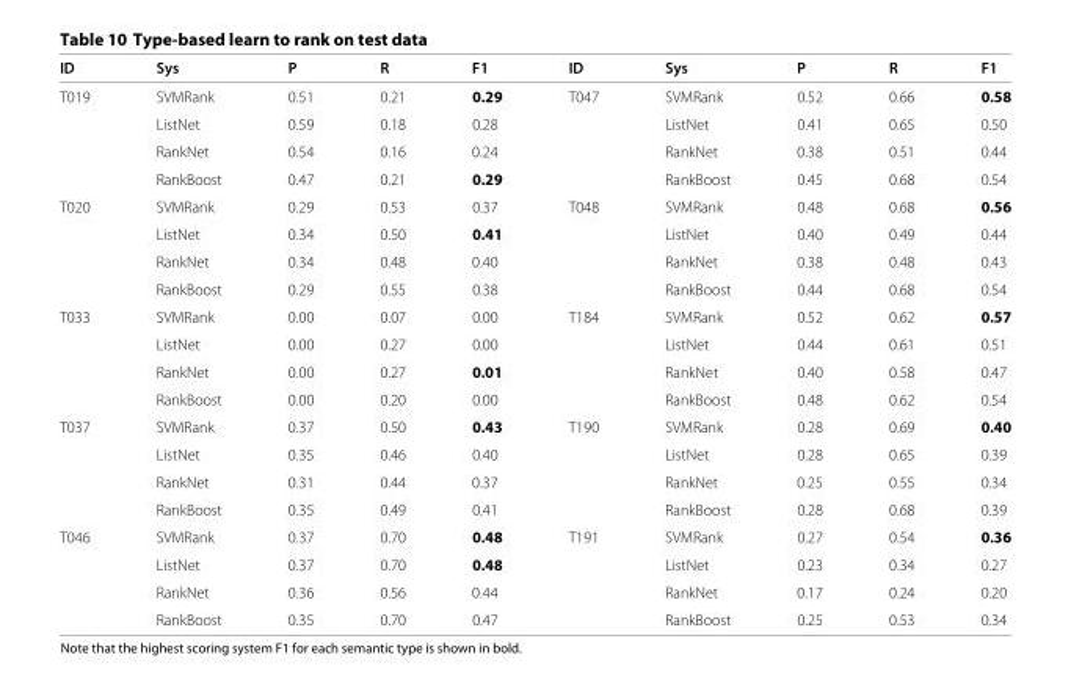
<table><thead><tr><td>ID</td><td>Sys</td><td>P</td><td>R</td><td>F1</td><td>ID</td><td>Sys</td><td>P</td><td>R</td><td>F1</td></tr></thead><tbody><tr><td rowspan="4">T019</td><td>SVMRank</td><td>0.51</td><td>0.21</td><td>0.29</td><td>T047</td><td>SVMRank</td><td>0.52</td><td>0.66</td><td>0.58</td></tr><tr><td>ListNet</td><td>0.59</td><td>0.18</td><td>0.28</td><td></td><td>ListNet</td><td>0.41</td><td>0.65</td><td>0.50</td></tr><tr><td>RankNet</td><td>0.54</td><td>0.16</td><td>0.24</td><td></td><td>RankNet</td><td>0.38</td><td>0.51</td><td>0.44</td></tr><tr><td>RankBoost</td><td>0.47</td><td>0.21</td><td>0.29</td><td></td><td>RankBoost</td><td>0.45</td><td>0.68</td><td>0.54</td></tr><tr><td rowspan="4">T020</td><td>SVMRank</td><td>0.29</td><td>0.53</td><td>0.37</td><td>T048</td><td>SVMRank</td><td>0.48</td><td>0.68</td><td>0.56</td></tr><tr><td>ListNet</td><td>0.34</td><td>0.50</td><td>0.41</td><td></td><td>ListNet</td><td>0.40</td><td>0.49</td><td>0.44</td></tr><tr><td>RankNet</td><td>0.34</td><td>0.48</td><td>0.40</td><td></td><td>RankNet</td><td>0.38</td><td>0.48</td><td>0.43</td></tr><tr><td>RankBoost</td><td>0.29</td><td>0.55</td><td>0.38</td><td></td><td>RankBoost</td><td>0.44</td><td>0.68</td><td>0.54</td></tr><tr><td rowspan="4">T033</td><td>SVMRank</td><td>0.00</td><td>0.07</td><td>0.00</td><td>T184</td><td>SVMRank</td><td>0.52</td><td>0.62</td><td>0.57</td></tr><tr><td>ListNet</td><td>0.00</td><td>0.27</td><td>0.00</td><td></td><td>ListNet</td><td>0.44</td><td>0.61</td><td>0.51</td></tr><tr><td>RankNet</td><td>0.00</td><td>0.27</td><td>0.01</td><td></td><td>RankNet</td><td>0.40</td><td>0.58</td><td>0.47</td></tr><tr><td>RankBoost</td><td>0.00</td><td>0.20</td><td>0.00</td><td></td><td>RankBoost</td><td>0.48</td><td>0.62</td><td>0.54</td></tr><tr><td rowspan="4">T037</td><td>SVMRank</td><td>0.37</td><td>0.50</td><td>0.43</td><td>T190</td><td>SVMRank</td><td>0.28</td><td>0.69</td><td>0.40</td></tr><tr><td>ListNet</td><td>0.35</td><td>0.46</td><td>0.40</td><td></td><td>ListNet</td><td>0.28</td><td>0.65</td><td>0.39</td></tr><tr><td>RankNet</td><td>0.31</td><td>0.44</td><td>0.37</td><td></td><td>RankNet</td><td>0.25</td><td>0.55</td><td>0.34</td></tr><tr><td>RankBoost</td><td>0.35</td><td>0.49</td><td>0.41</td><td></td><td>RankBoost</td><td>0.28</td><td>0.68</td><td>0.39</td></tr><tr><td rowspan="4">T046</td><td>SVMRank</td><td>0.37</td><td>0.70</td><td>0.48</td><td>T191</td><td>SVMRank</td><td>0.27</td><td>0.54</td><td>0.36</td></tr><tr><td>ListNet</td><td>0.37</td><td>0.70</td><td>0.48</td><td></td><td>ListNet</td><td>0.23</td><td>0.34</td><td>0.27</td></tr><tr><td>RankNet</td><td>0.36</td><td>0.56</td><td>0.44</td><td></td><td>RankNet</td><td>0.17</td><td>0.24</td><td>0.20</td></tr><tr><td>RankBoost</td><td>0.35</td><td>0.70</td><td>0.47</td><td></td><td>RankBoost</td><td>0.25</td><td>0.53</td><td>0.34</td></tr></tbody></table>